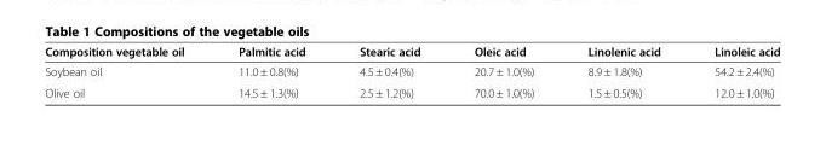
<table><thead><tr><td>Composition vegetable oil</td><td>Palmitic acid</td><td>Stearic acid</td><td>Oleic acid</td><td>Linolenic acid</td><td>Linoleic acid</td></tr></thead><tbody><tr><td>Soybean oil</td><td>11.0 ± 0.8(%)</td><td>4.5 ± 0.4(%)</td><td>20.7 ± 1.0(%)</td><td>8.9 ± 1.8(%)</td><td>54.2 ± 2.4(%)</td></tr><tr><td>Olive oil</td><td>14.5 ± 1.3(%)</td><td>2.5 ± 1.2(%)</td><td>70.0 ± 1.0(%)</td><td>1.5 ± 0.5(%)</td><td>12.0 ± 1.0(%)</td></tr></tbody></table>